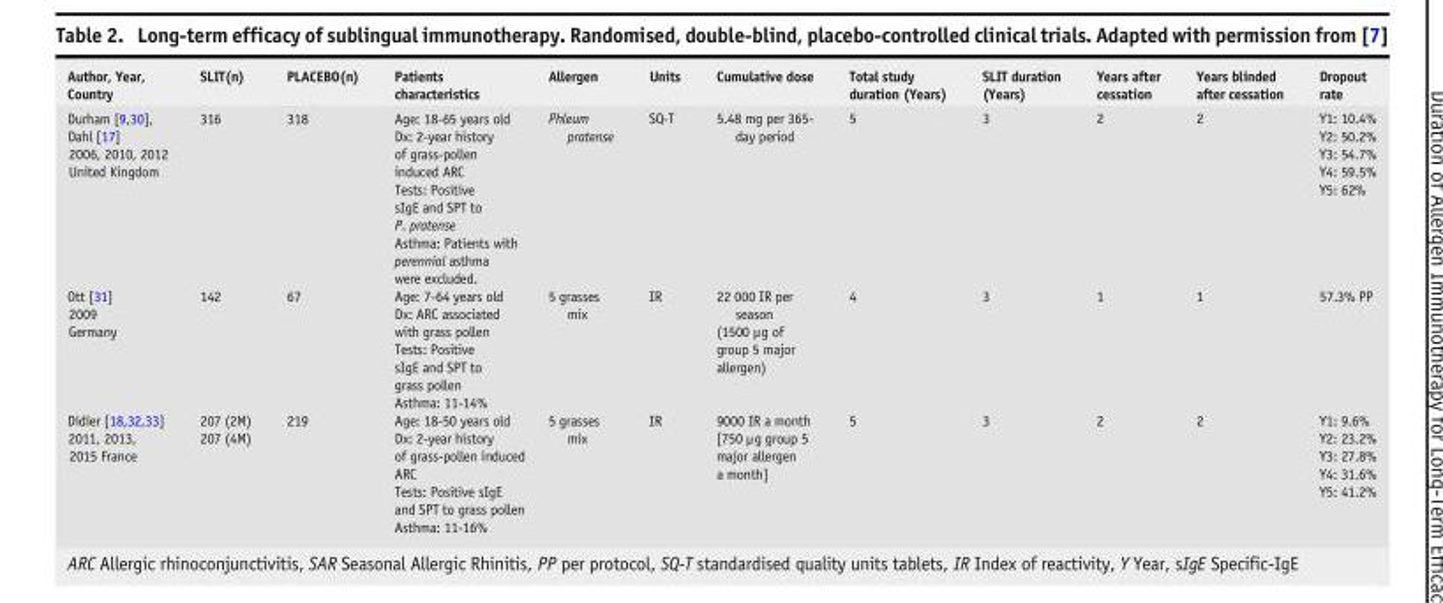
<table><thead><tr><td>Author, Year, Country</td><td>SLIT(n)</td><td>PLACEBO(n)</td><td>Patients characteristics</td><td>Allergen</td><td>Units</td><td>Cumulative dose</td><td>Total study duration (Years)</td><td>SLIT duration (Years)</td><td>Years after cessation</td><td>Years blinded after cessation</td><td>Dropout rate</td></tr></thead><tbody><tr><td>Durham [9,30], Dahl [17] 2006, 2010, 2012 United Kingdom</td><td>316</td><td>318</td><td>Age: 18-65 years old Dx: 2-year history of grass-pollen induced ARC Tests: Positive sIgE and SPT to P. pratense Asthma: Patients with perennial asthma were excluded.</td><td>Phleum pratense</td><td>SQ-T</td><td>5.48 mg per 365- day period</td><td>5</td><td>3</td><td>2</td><td>2</td><td>Y1: 10.4% Y2: 50.2% Y3: 54.7% Y4: 59.5% Y5: 62%</td></tr><tr><td>Ott [31] 2009 Germany</td><td>142</td><td>67</td><td>Age: 7-64 years old Dx: ARC associated with grass pollen Tests: Positive sIgE and SPT to grass pollen Asthma: 11-14%</td><td>5 grasses mix</td><td>IR</td><td>22 000 IR per season (1500 μg of group 5 major allergen)</td><td>4</td><td>3</td><td>1</td><td>1</td><td>57.3% PP</td></tr><tr><td>Didier [18,32,33] 2011, 2013, 2015 France</td><td>207 (2M) 207 (4M)</td><td>219</td><td>Age: 18-50 years old Dx: 2-year history of grass-pollen induced ARC Tests: Positive sIgE and SPT to grass pollen Asthma: 11-16%</td><td>5 grasses mix</td><td>IR</td><td>9000 IR a month [750 μg group 5 major allergen a month]</td><td>5</td><td>3</td><td>2</td><td>2</td><td>Y1: 9.6% Y2: 23.2% Y3: 27.8% Y4: 31.6% Y5: 41.2%</td></tr></tbody></table>